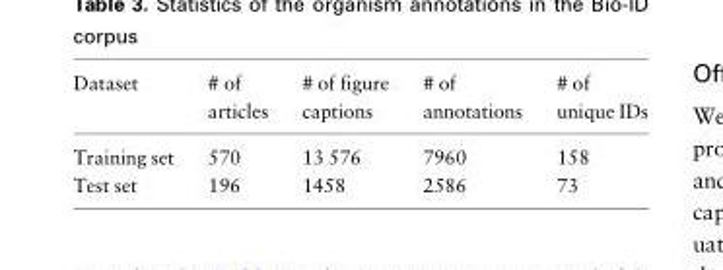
<table><thead><tr><td>Dataset</td><td># of articles</td><td># of figure captions</td><td># of annotations</td><td># of unique IDs</td></tr></thead><tbody><tr><td>Training set</td><td>570</td><td>13 576</td><td>7960</td><td>158</td></tr><tr><td>Test set</td><td>196</td><td>1458</td><td>2586</td><td>73</td></tr></tbody></table>